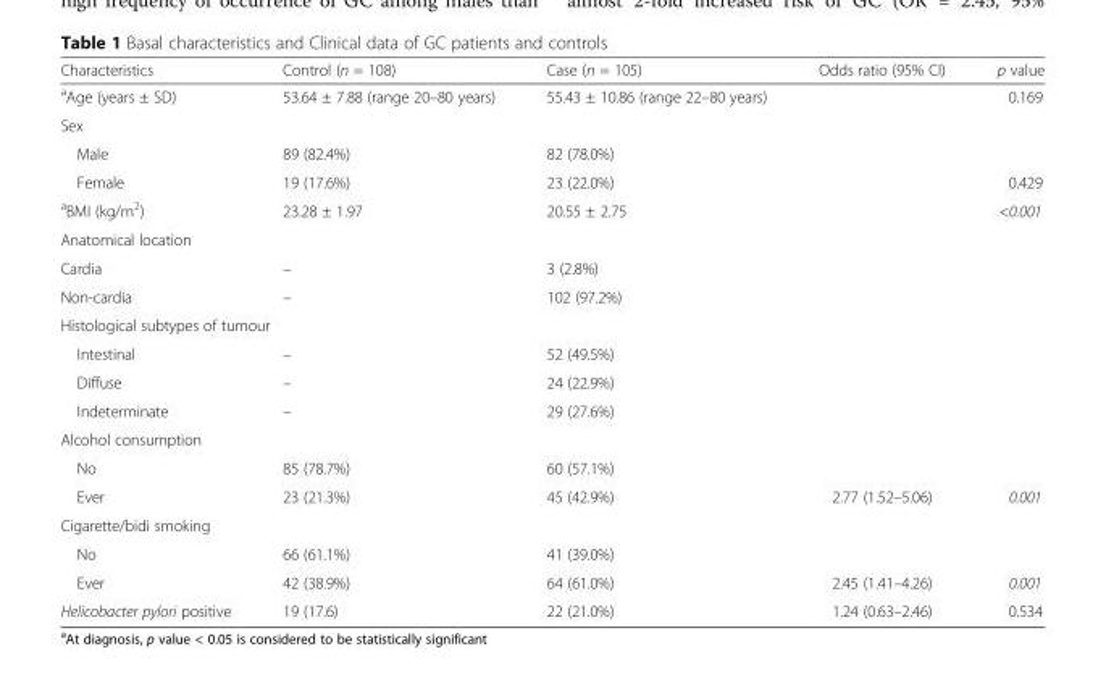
<table><thead><tr><td>Characteristics</td><td>Control (n = 108)</td><td>Case (n = 105)</td><td>Odds ratio (95% CI)</td><td>p value</td></tr></thead><tbody><tr><td><sup>a</sup>Age (years ± SD)</td><td>53.64 ± 7.88 (range 20–80 years)</td><td>55.43 ± 10.86 (range 22–80 years)</td><td></td><td>0.169</td></tr><tr><td colspan="5">Sex</td></tr><tr><td>Male</td><td>89 (82.4%)</td><td>82 (78.0%)</td><td></td><td></td></tr><tr><td>Female</td><td>19 (17.6%)</td><td>23 (22.0%)</td><td></td><td>0.429</td></tr><tr><td><sup>a</sup>BMI (kg/m<sup>2</sup>)</td><td>23.28 ± 1.97</td><td>20.55 ± 2.75</td><td></td><td>&lt;0.001</td></tr><tr><td colspan="5">Anatomical location</td></tr><tr><td>Cardia</td><td>–</td><td>3 (2.8%)</td><td></td><td></td></tr><tr><td>Non-cardia</td><td>–</td><td>102 (97.2%)</td><td></td><td></td></tr><tr><td colspan="5">Histological subtypes of tumour</td></tr><tr><td>Intestinal</td><td>–</td><td>52 (49.5%)</td><td></td><td></td></tr><tr><td>Diffuse</td><td>–</td><td>24 (22.9%)</td><td></td><td></td></tr><tr><td>Indeterminate</td><td>–</td><td>29 (27.6%)</td><td></td><td></td></tr><tr><td colspan="5">Alcohol consumption</td></tr><tr><td>No</td><td>85 (78.7%)</td><td>60 (57.1%)</td><td></td><td></td></tr><tr><td>Ever</td><td>23 (21.3%)</td><td>45 (42.9%)</td><td>2.77 (1.52–5.06)</td><td>0.001</td></tr><tr><td colspan="5">Cigarette/bidi smoking</td></tr><tr><td>No</td><td>66 (61.1%)</td><td>41 (39.0%)</td><td></td><td></td></tr><tr><td>Ever</td><td>42 (38.9%)</td><td>64 (61.0%)</td><td>2.45 (1.41–4.26)</td><td>0.001</td></tr><tr><td>Helicobacter pylori positive</td><td>19 (17.6)</td><td>22 (21.0%)</td><td>1.24 (0.63–2.46)</td><td>0.534</td></tr></tbody></table>